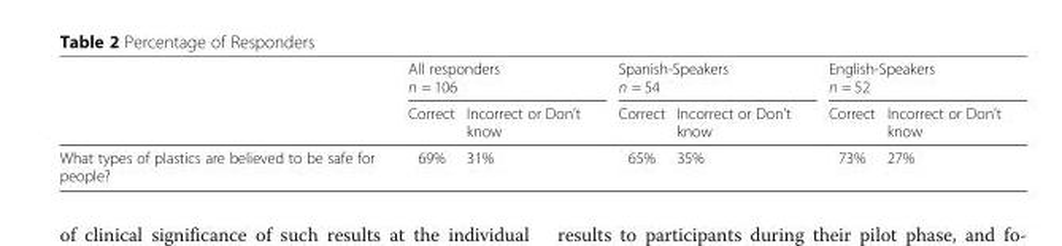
<table><thead><tr><td rowspan="2"></td><td colspan="2">All responders n = 106</td><td colspan="2">Spanish-Speakers n = 54</td><td colspan="2">English-Speakers n = 52</td></tr><tr><td>Correct</td><td>Incorrect or Don’t know</td><td>Correct</td><td>Incorrect or Don’t know</td><td>Correct</td><td>Incorrect or Don’t know</td></tr></thead><tbody><tr><td>What types of plastics are believed to be safe for people?</td><td>69%</td><td>31%</td><td>65%</td><td>35%</td><td>73%</td><td>27%</td></tr></tbody></table>